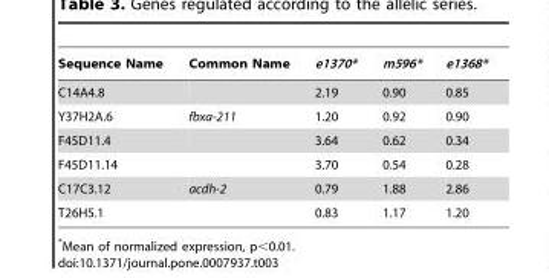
<table><thead><tr><td>Sequence Name</td><td>Common Name</td><td>e1370*</td><td>m596*</td><td>e1368*</td></tr></thead><tbody><tr><td>C14A4.8</td><td></td><td>2.19</td><td>0.90</td><td>0.85</td></tr><tr><td>Y37H2A.6</td><td>fbxa-211</td><td>1.20</td><td>0.92</td><td>0.90</td></tr><tr><td>F45D11.4</td><td></td><td>3.64</td><td>0.62</td><td>0.34</td></tr><tr><td>F45D11.14</td><td></td><td>3.70</td><td>0.54</td><td>0.28</td></tr><tr><td>C17C3.12</td><td>acdh-2</td><td>0.79</td><td>1.88</td><td>2.86</td></tr><tr><td>T26H5.1</td><td></td><td>0.83</td><td>1.17</td><td>1.20</td></tr></tbody></table>